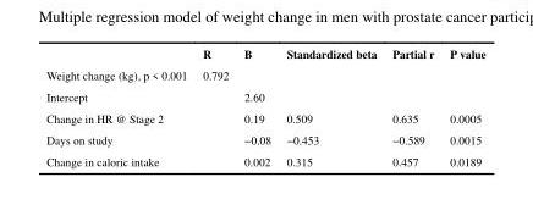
<table><thead><tr><td></td><td>R</td><td>B</td><td>Standardized beta</td><td>Partial r</td><td>P value</td></tr></thead><tbody><tr><td>Weight change (kg), p &lt; 0.001</td><td>0.792</td><td></td><td></td><td></td><td></td></tr><tr><td>Intercept</td><td></td><td>2.60</td><td></td><td></td><td></td></tr><tr><td>Change in HR @ Stage 2</td><td></td><td>0.19</td><td>0.509</td><td>0.635</td><td>0.0005</td></tr><tr><td>Days on study</td><td></td><td>−0.08</td><td>−0.453</td><td>−0.589</td><td>0.0015</td></tr><tr><td>Change in caloric intake</td><td></td><td>0.002</td><td>0.315</td><td>0.457</td><td>0.0189</td></tr></tbody></table>